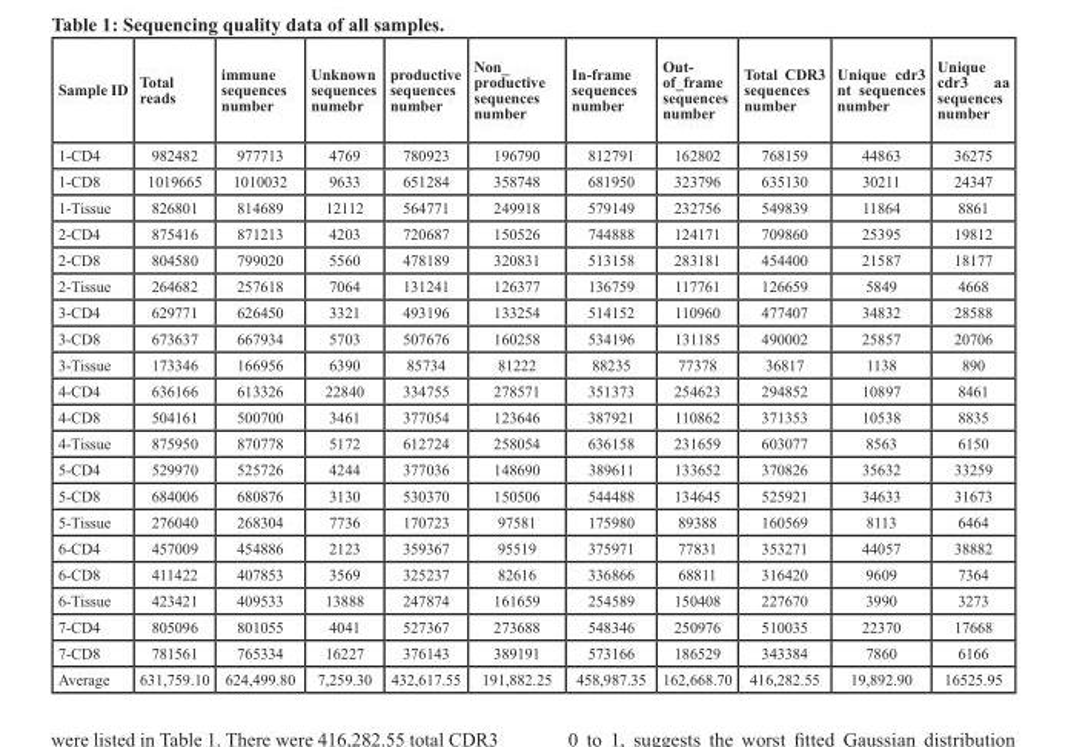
<table><thead><tr><td>Sample ID</td><td>Total reads</td><td>immune sequences number</td><td>Unknown sequences numebr</td><td>productive sequences number</td><td>Non_ productive sequences number</td><td>In-frame sequences number</td><td>Out- of_frame sequences number</td><td>Total CDR3 sequences number</td><td>Unique cdr3 nt sequences number</td><td>Unique cdr3 aa sequences number</td></tr></thead><tbody><tr><td>1-CD4</td><td>982482</td><td>977713</td><td>4769</td><td>780923</td><td>196790</td><td>812791</td><td>162802</td><td>768159</td><td>44863</td><td>36275</td></tr><tr><td>1-CD8</td><td>1019665</td><td>1010032</td><td>9633</td><td>651284</td><td>358748</td><td>681950</td><td>323796</td><td>635130</td><td>30211</td><td>24347</td></tr><tr><td>1-Tissue</td><td>826801</td><td>814689</td><td>12112</td><td>564771</td><td>249918</td><td>579149</td><td>232756</td><td>549839</td><td>11864</td><td>8861</td></tr><tr><td>2-CD4</td><td>875416</td><td>871213</td><td>4203</td><td>720687</td><td>150526</td><td>744888</td><td>124171</td><td>709860</td><td>25395</td><td>19812</td></tr><tr><td>2-CD8</td><td>804580</td><td>799020</td><td>5560</td><td>478189</td><td>320831</td><td>513158</td><td>283181</td><td>454400</td><td>21587</td><td>18177</td></tr><tr><td>2-Tissue</td><td>264682</td><td>257618</td><td>7064</td><td>131241</td><td>126377</td><td>136759</td><td>117761</td><td>126659</td><td>5849</td><td>4668</td></tr><tr><td>3-CD4</td><td>629771</td><td>626450</td><td>3321</td><td>493196</td><td>133254</td><td>514152</td><td>110960</td><td>477407</td><td>34832</td><td>28588</td></tr><tr><td>3-CD8</td><td>673637</td><td>667934</td><td>5703</td><td>507676</td><td>160258</td><td>534196</td><td>131185</td><td>490002</td><td>25857</td><td>20706</td></tr><tr><td>3-Tissue</td><td>173346</td><td>166956</td><td>6390</td><td>85734</td><td>81222</td><td>88235</td><td>77378</td><td>36817</td><td>1138</td><td>890</td></tr><tr><td>4-CD4</td><td>636166</td><td>613326</td><td>22840</td><td>334755</td><td>278571</td><td>351373</td><td>254623</td><td>294852</td><td>10897</td><td>8461</td></tr><tr><td>4-CD8</td><td>504161</td><td>500700</td><td>3461</td><td>377054</td><td>123646</td><td>387921</td><td>110862</td><td>371353</td><td>10538</td><td>8835</td></tr><tr><td>4-Tissue</td><td>875950</td><td>870778</td><td>5172</td><td>612724</td><td>258054</td><td>636158</td><td>231659</td><td>603077</td><td>8563</td><td>6150</td></tr><tr><td>5-CD4</td><td>529970</td><td>525726</td><td>4244</td><td>377036</td><td>148690</td><td>389611</td><td>133652</td><td>370826</td><td>35632</td><td>33259</td></tr><tr><td>5-CD8</td><td>684006</td><td>680876</td><td>3130</td><td>530370</td><td>150506</td><td>544488</td><td>134645</td><td>525921</td><td>34633</td><td>31673</td></tr><tr><td>5-Tissue</td><td>276040</td><td>268304</td><td>7736</td><td>170723</td><td>97581</td><td>175980</td><td>89388</td><td>160569</td><td>8113</td><td>6464</td></tr><tr><td>6-CD4</td><td>457009</td><td>454886</td><td>2123</td><td>359367</td><td>95519</td><td>375971</td><td>77831</td><td>353271</td><td>44057</td><td>38882</td></tr><tr><td>6-CD8</td><td>411422</td><td>407853</td><td>3569</td><td>325237</td><td>82616</td><td>336866</td><td>68811</td><td>316420</td><td>9609</td><td>7364</td></tr><tr><td>6-Tissue</td><td>423421</td><td>409533</td><td>13888</td><td>247874</td><td>161659</td><td>254589</td><td>150408</td><td>227670</td><td>3990</td><td>3273</td></tr><tr><td>7-CD4</td><td>805096</td><td>801055</td><td>4041</td><td>527367</td><td>273688</td><td>548346</td><td>250976</td><td>510035</td><td>22370</td><td>17668</td></tr><tr><td>7-CD8</td><td>781561</td><td>765334</td><td>16227</td><td>376143</td><td>389191</td><td>573166</td><td>186529</td><td>343384</td><td>7860</td><td>6166</td></tr><tr><td>Average</td><td>631,759.10</td><td>624,499.80</td><td>7,259.30</td><td>432,617.55</td><td>191,882.25</td><td>458,987.35</td><td>162,668.70</td><td>416,282.55</td><td>19,892.90</td><td>16525.95</td></tr></tbody></table>